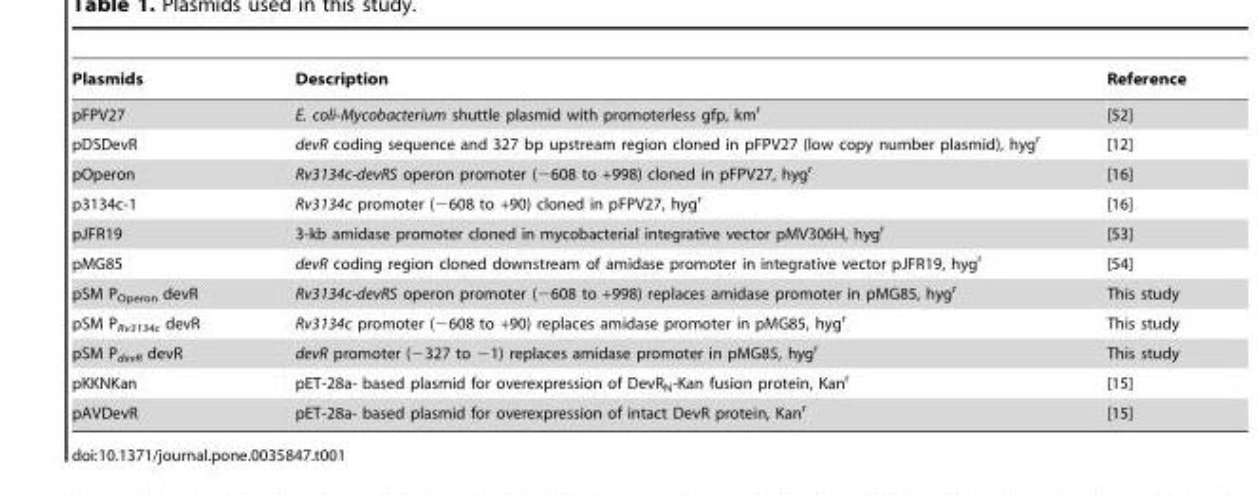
<table><thead><tr><td>Plasmids</td><td>Description</td><td>Reference</td></tr></thead><tbody><tr><td>pFPV27</td><td>E. coli-Mycobacterium shuttle plasmid with promoterless gfp, km<sup>r</sup></td><td>[52]</td></tr><tr><td>pDSDevR</td><td>devR coding sequence and 327 bp upstream region cloned in pFPV27 (low copy number plasmid), hyg<sup>r</sup></td><td>[12]</td></tr><tr><td>pOperon</td><td>Rv3134c-devRS operon promoter (−608 to +998) cloned in pFPV27, hyg<sup>r</sup></td><td>[16]</td></tr><tr><td>p3134c-1</td><td>Rv3134c promoter (−608 to +90) cloned in pFPV27, hyg<sup>r</sup></td><td>[16]</td></tr><tr><td>pJFR19</td><td>3-kb amidase promoter cloned in mycobacterial integrative vector pMV306H, hyg<sup>r</sup></td><td>[53]</td></tr><tr><td>pMG85</td><td>devR coding region cloned downstream of amidase promoter in integrative vector pJFR19, hyg<sup>r</sup></td><td>[54]</td></tr><tr><td>pSM P<sub>Operon</sub> devR</td><td>Rv3134c-devRS operon promoter (−608 to +998) replaces amidase promoter in pMG85, hyg<sup>r</sup></td><td>This study</td></tr><tr><td>pSM P<sub>Rv3134c</sub> devR</td><td>Rv3134c promoter (−608 to +90) replaces amidase promoter in pMG85, hyg<sup>r</sup></td><td>This study</td></tr><tr><td>pSM P<sub>devR</sub> devR</td><td>devR promoter (−327 to −1) replaces amidase promoter in pMG85, hyg<sup>r</sup></td><td>This study</td></tr><tr><td>pKKNKan</td><td>pET-28a- based plasmid for overexpression of DevR<sub>N</sub>-Kan fusion protein, Kan<sup>r</sup></td><td>[15]</td></tr><tr><td>pAVDevR</td><td>pET-28a- based plasmid for overexpression of intact DevR protein, Kan<sup>r</sup></td><td>[15]</td></tr></tbody></table>